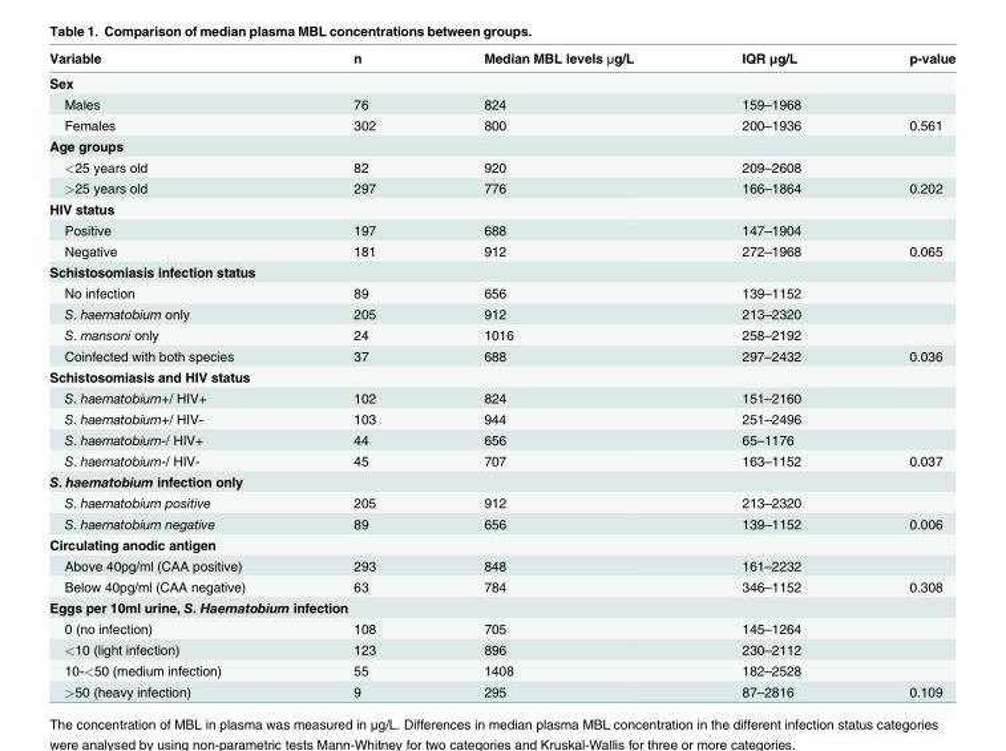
<table><thead><tr><td>Variable</td><td>n</td><td>Median MBL levels μg/L</td><td>IQR μg/L</td><td>p-value</td></tr></thead><tbody><tr><td colspan="5">Sex</td></tr><tr><td>Males</td><td>76</td><td>824</td><td>159–1968</td><td></td></tr><tr><td>Females</td><td>302</td><td>800</td><td>200–1936</td><td>0.561</td></tr><tr><td colspan="5">Age groups</td></tr><tr><td>&lt;25 years old</td><td>82</td><td>920</td><td>209–2608</td><td></td></tr><tr><td>&gt;25 years old</td><td>297</td><td>776</td><td>166–1864</td><td>0.202</td></tr><tr><td colspan="5">HIV status</td></tr><tr><td>Positive</td><td>197</td><td>688</td><td>147–1904</td><td></td></tr><tr><td>Negative</td><td>181</td><td>912</td><td>272–1968</td><td>0.065</td></tr><tr><td colspan="5">Schistosomiasis infection status</td></tr><tr><td>No infection</td><td>89</td><td>656</td><td>139–1152</td><td></td></tr><tr><td>S. haematobium only</td><td>205</td><td>912</td><td>213–2320</td><td></td></tr><tr><td>S. mansoni only</td><td>24</td><td>1016</td><td>258–2192</td><td></td></tr><tr><td>Coinfected with both species</td><td>37</td><td>688</td><td>297–2432</td><td>0.036</td></tr><tr><td colspan="5">Schistosomiasis and HIV status</td></tr><tr><td>S. haematobium+/ HIV+</td><td>102</td><td>824</td><td>151–2160</td><td></td></tr><tr><td>S. haematobium+/ HIV-</td><td>103</td><td>944</td><td>251–2496</td><td></td></tr><tr><td>S. haematobium-/ HIV+</td><td>44</td><td>656</td><td>65–1176</td><td></td></tr><tr><td>S. haematobium-/ HIV-</td><td>45</td><td>707</td><td>163–1152</td><td>0.037</td></tr><tr><td colspan="5">S. haematobium infection only</td></tr><tr><td>S. haematobium positive</td><td>205</td><td>912</td><td>213–2320</td><td></td></tr><tr><td>S. haematobium negative</td><td>89</td><td>656</td><td>139–1152</td><td>0.006</td></tr><tr><td colspan="5">Circulating anodic antigen</td></tr><tr><td>Above 40pg/ml (CAA positive)</td><td>293</td><td>848</td><td>161–2232</td><td></td></tr><tr><td>Below 40pg/ml (CAA negative)</td><td>63</td><td>784</td><td>346–1152</td><td>0.308</td></tr><tr><td colspan="5">Eggs per 10ml urine, S. Haematobium infection</td></tr><tr><td>0 (no infection)</td><td>108</td><td>705</td><td>145–1264</td><td></td></tr><tr><td>&lt;10 (light infection)</td><td>123</td><td>896</td><td>230–2112</td><td></td></tr><tr><td>10-&lt;50 (medium infection)</td><td>55</td><td>1408</td><td>182–2528</td><td></td></tr><tr><td>&gt;50 (heavy infection)</td><td>9</td><td>295</td><td>87–2816</td><td>0.109</td></tr></tbody></table>